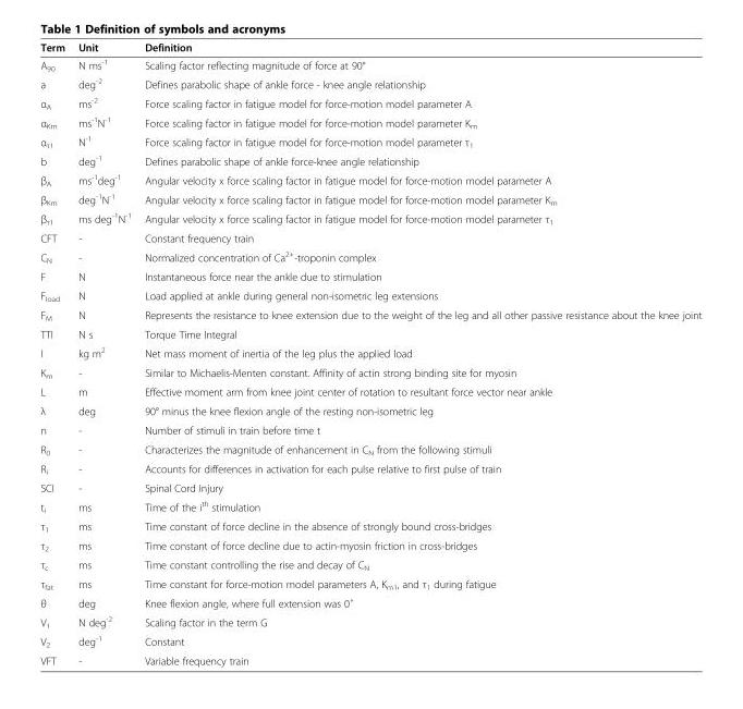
<table><thead><tr><td>Term</td><td>Unit</td><td>Definition</td></tr></thead><tbody><tr><td>A<sub>90</sub></td><td>N ms<sup>-1</sup></td><td>Scaling factor reflecting magnitude of force at 90°</td></tr><tr><td>a</td><td>deg<sup>-2</sup></td><td>Defines parabolic shape of ankle force - knee angle relationship</td></tr><tr><td>α<sub>A</sub></td><td>ms<sup>-2</sup></td><td>Force scaling factor in fatigue model for force-motion model parameter A</td></tr><tr><td>α<sub>Km</sub></td><td>ms<sup>-1</sup>N<sup>-1</sup></td><td>Force scaling factor in fatigue model for force-motion model parameter K<sub>m</sub></td></tr><tr><td>α<sub>τ1</sub></td><td>N<sup>-1</sup></td><td>Force scaling factor in fatigue model for force-motion model parameter τ<sub>1</sub></td></tr><tr><td>b</td><td>deg<sup>-1</sup></td><td>Defines parabolic shape of ankle force-knee angle relationship</td></tr><tr><td>β<sub>A</sub></td><td>ms<sup>-1</sup>deg<sup>-1</sup></td><td>Angular velocity x force scaling factor in fatigue model for force-motion model parameter A</td></tr><tr><td>β<sub>Km</sub></td><td>deg<sup>-1</sup>N<sup>-1</sup></td><td>Angular velocity x force scaling factor in fatigue model for force-motion model parameter K<sub>m</sub></td></tr><tr><td>β<sub>τ1</sub></td><td>ms deg<sup>-1</sup>N<sup>-1</sup></td><td>Angular velocity x force scaling factor in fatigue model for force-motion model parameter τ<sub>1</sub></td></tr><tr><td>CFT</td><td>-</td><td>Constant frequency train</td></tr><tr><td>C<sub>N</sub></td><td>-</td><td>Normalized concentration of Ca<sup>2+</sup>-troponin complex</td></tr><tr><td>F</td><td>N</td><td>Instantaneous force near the ankle due to stimulation</td></tr><tr><td>F<sub>load</sub></td><td>N</td><td>Load applied at ankle during general non-isometric leg extensions</td></tr><tr><td>F<sub>M</sub></td><td>N</td><td>Represents the resistance to knee extension due to the weight of the leg and all other passive resistance about the knee joint</td></tr><tr><td>TTI</td><td>N s</td><td>Torque Time Integral</td></tr><tr><td>I</td><td>kg m<sup>2</sup></td><td>Net mass moment of inertia of the leg plus the applied load</td></tr><tr><td>K<sub>m</sub></td><td>-</td><td>Similar to Michaelis-Menten constant. Affinity of actin strong binding site for myosin</td></tr><tr><td>L</td><td>m</td><td>Effective moment arm from knee joint center of rotation to resultant force vector near ankle</td></tr><tr><td>λ</td><td>deg</td><td>90° minus the knee flexion angle of the resting non-isometric leg</td></tr><tr><td>n</td><td>-</td><td>Number of stimuli in train before time t</td></tr><tr><td>R<sub>0</sub></td><td>-</td><td>Characterizes the magnitude of enhancement in C<sub>N</sub> from the following stimuli</td></tr><tr><td>R<sub>i</sub></td><td>-</td><td>Accounts for differences in activation for each pulse relative to first pulse of train</td></tr><tr><td>SCI</td><td>-</td><td>Spinal Cord Injury</td></tr><tr><td>t<sub>i</sub></td><td>ms</td><td>Time of the i<sup>th</sup> stimulation</td></tr><tr><td>τ<sub>1</sub></td><td>ms</td><td>Time constant of force decline in the absence of strongly bound cross-bridges</td></tr><tr><td>τ<sub>2</sub></td><td>ms</td><td>Time constant of force decline due to actin-myosin friction in cross-bridges</td></tr><tr><td>τ<sub>c</sub></td><td>ms</td><td>Time constant controlling the rise and decay of C<sub>N</sub></td></tr><tr><td>τ<sub>fat</sub></td><td>ms</td><td>Time constant for force-motion model parameters A, K<sub>m1</sub>, and τ<sub>1</sub> during fatigue</td></tr><tr><td>θ</td><td>deg</td><td>Knee flexion angle, where full extension was 0˚</td></tr><tr><td>V<sub>1</sub></td><td>N deg<sup>-2</sup></td><td>Scaling factor in the term G</td></tr><tr><td>V<sub>2</sub></td><td>deg<sup>-1</sup></td><td>Constant</td></tr><tr><td>VFT</td><td>-</td><td>Variable frequency train</td></tr></tbody></table>